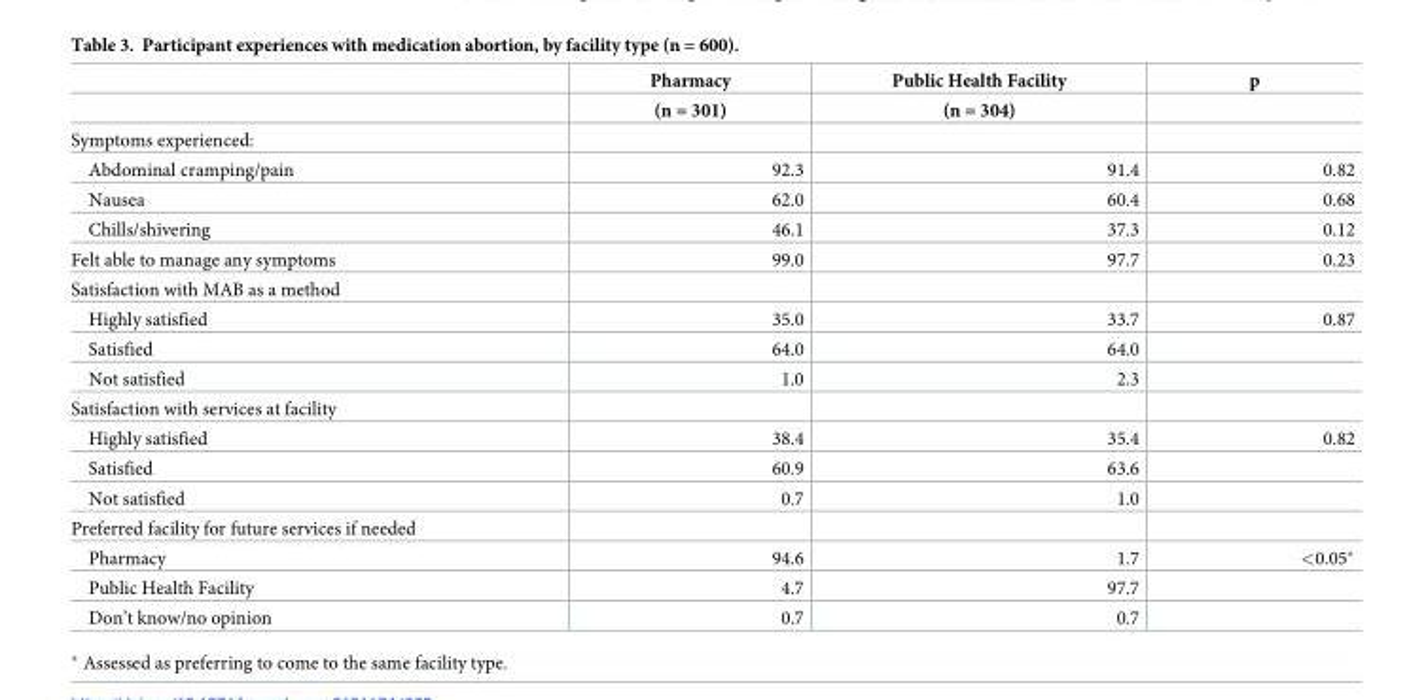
<table><thead><tr><td rowspan="2"></td><td rowspan="2">Pharmacy (n = 301)</td><td rowspan="2">Public Health Facility (n = 304)</td><td rowspan="2">p</td></tr><tr></tr></thead><tbody><tr><td colspan="4">Symptoms experienced:</td></tr><tr><td>Abdominal cramping/pain</td><td>92.3</td><td>91.4</td><td>0.82</td></tr><tr><td>Nausea</td><td>62.0</td><td>60.4</td><td>0.68</td></tr><tr><td>Chills/shivering</td><td>46.1</td><td>37.3</td><td>0.12</td></tr><tr><td>Felt able to manage any symptoms</td><td>99.0</td><td>97.7</td><td>0.23</td></tr><tr><td colspan="4">Satisfaction with MAB as a method</td></tr><tr><td>Highly satisfied</td><td>35.0</td><td>33.7</td><td>0.87</td></tr><tr><td>Satisfied</td><td>64.0</td><td>64.0</td><td></td></tr><tr><td>Not satisfied</td><td>1.0</td><td>2.3</td><td></td></tr><tr><td colspan="4">Satisfaction with services at facility</td></tr><tr><td>Highly satisfied</td><td>38.4</td><td>35.4</td><td>0.82</td></tr><tr><td>Satisfied</td><td>60.9</td><td>63.6</td><td></td></tr><tr><td>Not satisfied</td><td>0.7</td><td>1.0</td><td></td></tr><tr><td colspan="4">Preferred facility for future services if needed</td></tr><tr><td>Pharmacy</td><td>94.6</td><td>1.7</td><td>&lt;0.05*</td></tr><tr><td>Public Health Facility</td><td>4.7</td><td>97.7</td><td></td></tr><tr><td>Don’t know/no opinion</td><td>0.7</td><td>0.7</td><td></td></tr></tbody></table>